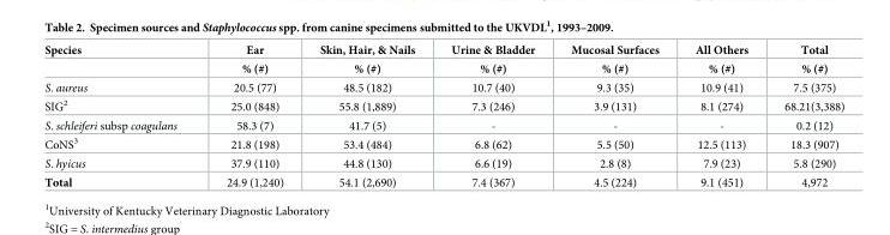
<table><thead><tr><td rowspan="2">Species</td><td rowspan="2">Ear % (#)</td><td rowspan="2">Skin, Hair, &amp; Nails % (#)</td><td rowspan="2">Urine &amp; Bladder % (#)</td><td rowspan="2">Mucosal Surfaces % (#)</td><td rowspan="2">All Others % (#)</td><td rowspan="2">Total % (#)</td></tr><tr></tr></thead><tbody><tr><td>S. aureus</td><td>20.5 (77)</td><td>48.5 (182)</td><td>10.7 (40)</td><td>9.3 (35)</td><td>10.9 (41)</td><td>7.5 (375)</td></tr><tr><td>SIG<sup>2</sup></td><td>25.0 (848)</td><td>55.8 (1,889)</td><td>7.3 (246)</td><td>3.9 (131)</td><td>8.1 (274)</td><td>68.21(3,388)</td></tr><tr><td>S. schleiferi subsp coagulans</td><td>58.3 (7)</td><td>41.7 (5)</td><td>-</td><td>-</td><td>-</td><td>0.2 (12)</td></tr><tr><td>CoNS<sup>3</sup></td><td>21.8 (198)</td><td>53.4 (484)</td><td>6.8 (62)</td><td>5.5 (50)</td><td>12.5 (113)</td><td>18.3 (907)</td></tr><tr><td>S. hyicus</td><td>37.9 (110)</td><td>44.8 (130)</td><td>6.6 (19)</td><td>2.8 (8)</td><td>7.9 (23)</td><td>5.8 (290)</td></tr><tr><td>Total</td><td>24.9 (1,240)</td><td>54.1 (2,690)</td><td>7.4 (367)</td><td>4.5 (224)</td><td>9.1 (451)</td><td>4,972</td></tr></tbody></table>